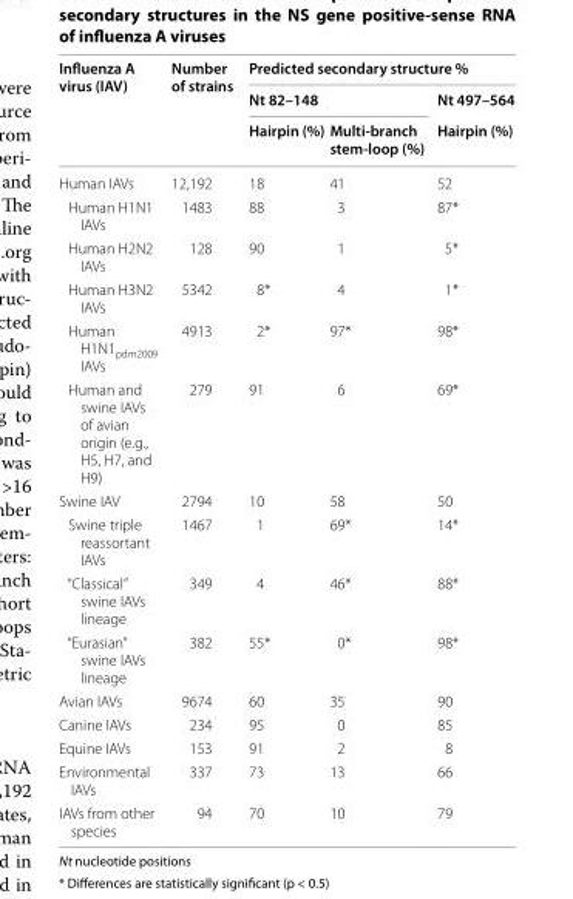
<table><thead><tr><td rowspan="3">Influenza A virus (IAV)</td><td rowspan="3">Number of strains</td><td colspan="3">Predicted secondary structure %</td></tr><tr><td colspan="2">Nt 82–148</td><td rowspan="2">Nt 497–564 Hairpin (%)</td></tr><tr><td>Hairpin (%)</td><td>Multi-branch stem-loop (%)</td></tr></thead><tbody><tr><td>Human IAVs</td><td>12,192</td><td>18</td><td>41</td><td>52</td></tr><tr><td>Human H1N1 IAVs</td><td>1483</td><td>88</td><td>3</td><td>87*</td></tr><tr><td>Human H2N2 IAVs</td><td>128</td><td>90</td><td>1</td><td>5*</td></tr><tr><td>Human H3N2 IAVs</td><td>5342</td><td>8*</td><td>4</td><td>1*</td></tr><tr><td>Human H1N1<sub>pdm2009</sub> IAVs</td><td>4913</td><td>2*</td><td>97*</td><td>98*</td></tr><tr><td>Human and swine IAVs of avian origin (e.g., H5, H7, and H9)</td><td>279</td><td>91</td><td>6</td><td>69*</td></tr><tr><td>Swine IAV</td><td>2794</td><td>10</td><td>58</td><td>50</td></tr><tr><td>Swine triple reassortant IAVs</td><td>1467</td><td>1</td><td>69*</td><td>14*</td></tr><tr><td>“Classical” swine IAVs lineage</td><td>349</td><td>4</td><td>46*</td><td>88*</td></tr><tr><td>“Eurasian” swine IAVs lineage</td><td>382</td><td>55*</td><td>0*</td><td>98*</td></tr><tr><td>Avian IAVs</td><td>9674</td><td>60</td><td>35</td><td>90</td></tr><tr><td>Canine IAVs</td><td>234</td><td>95</td><td>0</td><td>85</td></tr><tr><td>Equine IAVs</td><td>153</td><td>91</td><td>2</td><td>8</td></tr><tr><td>Environmental IAVs</td><td>337</td><td>73</td><td>13</td><td>66</td></tr><tr><td>IAVs from other species</td><td>94</td><td>70</td><td>10</td><td>79</td></tr></tbody></table>